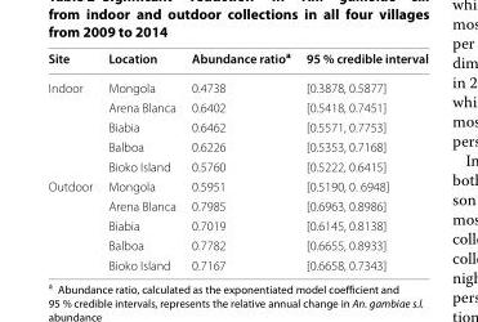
<table><thead><tr><td>Site</td><td>Location</td><td>Abundance ratio<sup>a</sup></td><td>95 % credible interval</td></tr></thead><tbody><tr><td rowspan="5">Indoor</td><td>Mongola</td><td>0.4738</td><td>[0.3878, 0.5877]</td></tr><tr><td>Arena Blanca</td><td>0.6402</td><td>[0.5418, 0.7451]</td></tr><tr><td>Biabia</td><td>0.6462</td><td>[0.5571, 0.7753]</td></tr><tr><td>Balboa</td><td>0.6226</td><td>[0.5353, 0.7168]</td></tr><tr><td>Bioko Island</td><td>0.5760</td><td>[0.5222, 0.6415]</td></tr><tr><td rowspan="5">Outdoor</td><td>Mongola</td><td>0.5951</td><td>[0.5190, 0. 6948]</td></tr><tr><td>Arena Blanca</td><td>0.7985</td><td>[0.6963, 0.8986]</td></tr><tr><td>Biabia</td><td>0.7019</td><td>[0.6145, 0.8138]</td></tr><tr><td>Balboa</td><td>0.7782</td><td>[0.6655, 0.8933]</td></tr><tr><td>Bioko Island</td><td>0.7167</td><td>[0.6658, 0.7343]</td></tr></tbody></table>